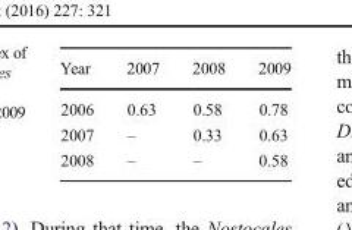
<table><thead><tr><td>Year</td><td>2007</td><td>2008</td><td>2009</td></tr></thead><tbody><tr><td>2006</td><td>0.63</td><td>0.58</td><td>0.78</td></tr><tr><td>2007</td><td>–</td><td>0.33</td><td>0.63</td></tr><tr><td>2008</td><td>–</td><td>–</td><td>0.58</td></tr></tbody></table>